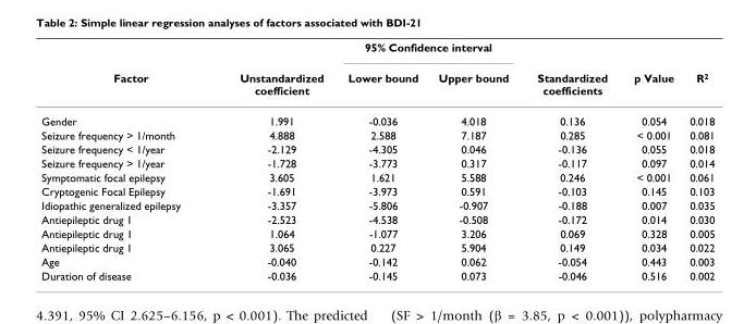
<table><thead><tr><td rowspan="2">Factor</td><td rowspan="2">Unstandardized coefficient</td><td colspan="2">95% Confidence interval</td><td rowspan="2">Standardized coefficients</td><td rowspan="2">p Value</td><td rowspan="2">R<sup>2</sup></td></tr><tr><td>Lower bound</td><td>Upper bound</td></tr></thead><tbody><tr><td>Gender</td><td>1.991</td><td>-0.036</td><td>4.018</td><td>0.136</td><td>0.054</td><td>0.018</td></tr><tr><td>Seizure frequency &gt; 1/month</td><td>4.888</td><td>2.588</td><td>7.187</td><td>0.285</td><td>&lt; 0.001</td><td>0.081</td></tr><tr><td>Seizure frequency &lt; 1/year</td><td>-2.129</td><td>-4.305</td><td>0.046</td><td>-0.136</td><td>0.055</td><td>0.018</td></tr><tr><td>Seizure frequency &gt; 1/year</td><td>-1.728</td><td>-3.773</td><td>0.317</td><td>-0.117</td><td>0.097</td><td>0.014</td></tr><tr><td>Symptomatic focal epilepsy</td><td>3.605</td><td>1.621</td><td>5.588</td><td>0.246</td><td>&lt; 0.001</td><td>0.061</td></tr><tr><td>Cryptogenic Focal Epilepsy</td><td>-1.691</td><td>-3.973</td><td>0.591</td><td>-0.103</td><td>0.145</td><td>0.103</td></tr><tr><td>Idiopathic generalized epilepsy</td><td>-3.357</td><td>-5.806</td><td>-0.907</td><td>-0.188</td><td>0.007</td><td>0.035</td></tr><tr><td>Antiepileptic drug 1</td><td>-2.523</td><td>-4.538</td><td>-0.508</td><td>-0.172</td><td>0.014</td><td>0.030</td></tr><tr><td>Antiepileptic drug 1</td><td>1.064</td><td>-1.077</td><td>3.206</td><td>0.069</td><td>0.328</td><td>0.005</td></tr><tr><td>Antiepileptic drug 1</td><td>3.065</td><td>0.227</td><td>5.904</td><td>0.149</td><td>0.034</td><td>0.022</td></tr><tr><td>Age</td><td>-0.040</td><td>-0.142</td><td>0.062</td><td>-0.054</td><td>0.443</td><td>0.003</td></tr><tr><td>Duration of disease</td><td>-0.036</td><td>-0.145</td><td>0.073</td><td>-0.046</td><td>0.516</td><td>0.002</td></tr></tbody></table>